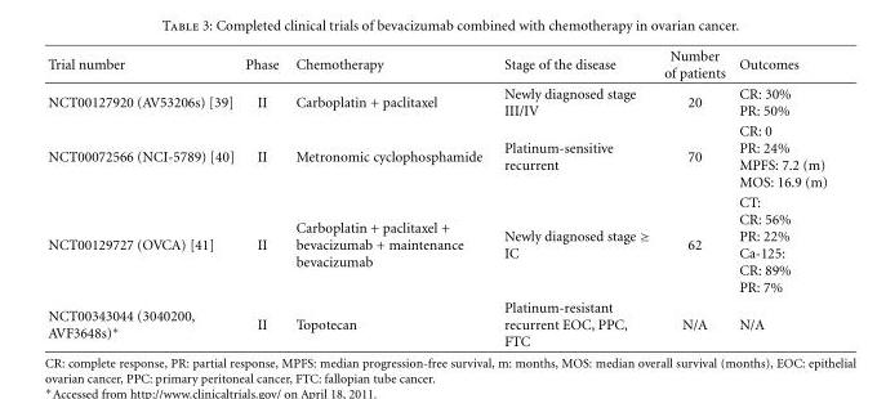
<table><thead><tr><td>Trial number</td><td>Phase</td><td>Chemotherapy</td><td>Stage of the disease</td><td>Number of patients</td><td>Outcomes</td></tr></thead><tbody><tr><td>NCT00127920 (AV53206s) [39]</td><td>II</td><td>Carboplatin + paclitaxel</td><td>Newly diagnosed stage III/IV</td><td>20</td><td>CR: 30% PR: 50%</td></tr><tr><td>NCT00072566 (NCI-5789) [40]</td><td>II</td><td>Metronomic cyclophosphamide</td><td>Platinum-sensitive recurrent</td><td>70</td><td>CR: 0 PR: 24% MPFS: 7.2 (m) MOS: 16.9 (m)</td></tr><tr><td>NCT00129727 (OVCA) [41]</td><td>II</td><td>Carboplatin + paclitaxel + bevacizumab + maintenance bevacizumab</td><td>Newly diagnosed stage ≥ IC</td><td>62</td><td>CT: CR: 56% PR: 22% Ca-125: CR: 89% PR: 7%</td></tr><tr><td>NCT00343044 (3040200, AVF3648s)∗</td><td>II</td><td>Topotecan</td><td>Platinum-resistant recurrent EOC, PPC, FTC</td><td>N/A</td><td>N/A</td></tr></tbody></table>